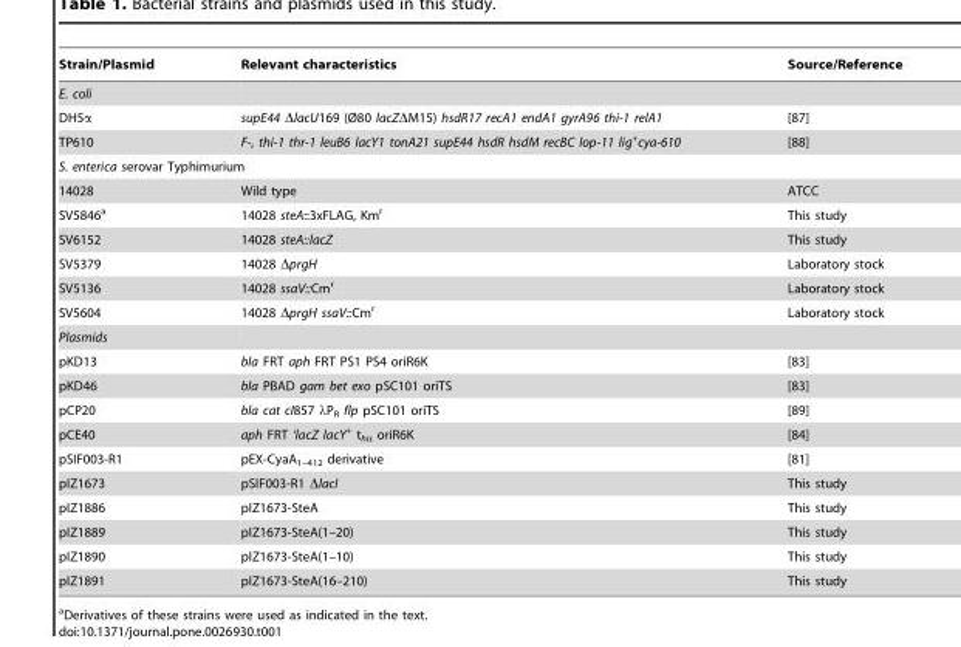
<table><thead><tr><td>Strain/Plasmid</td><td>Relevant characteristics</td><td>Source/Reference</td></tr></thead><tbody><tr><td colspan="3">E. coli</td></tr><tr><td>DH5α</td><td>supE44 ΔlacU169 (Ø80 lacZΔM15) hsdR17 recA1 endA1 gyrA96 thi-1 relA1</td><td>[87]</td></tr><tr><td>TP610</td><td>F-, thi-1 thr-1 leuB6 lacY1 tonA21 supE44 hsdR hsdM recBC lop-11 lig<sup>+</sup>cya-610</td><td>[88]</td></tr><tr><td colspan="3">S. enterica serovar Typhimurium</td></tr><tr><td>14028</td><td>Wild type</td><td>ATCC</td></tr><tr><td>SV5846<sup>a</sup></td><td>14028 steA::3xFLAG, Km<sup>r</sup></td><td>This study</td></tr><tr><td>SV6152</td><td>14028 steA::lacZ</td><td>This study</td></tr><tr><td>SV5379</td><td>14028 ΔprgH</td><td>Laboratory stock</td></tr><tr><td>SV5136</td><td>14028 ssaV::Cm<sup>r</sup></td><td>Laboratory stock</td></tr><tr><td>SV5604</td><td>14028 ΔprgH ssaV::Cm<sup>r</sup></td><td>Laboratory stock</td></tr><tr><td colspan="3">Plasmids</td></tr><tr><td>pKD13</td><td>bla FRT aph FRT PS1 PS4 oriR6K</td><td>[83]</td></tr><tr><td>pKD46</td><td>bla PBAD gam bet exo pSC101 oriTS</td><td>[83]</td></tr><tr><td>pCP20</td><td>bla cat cI857 λP<sub>R</sub> flp pSC101 oriTS</td><td>[89]</td></tr><tr><td>pCE40</td><td>aph FRT ‘lacZ lacY<sup>+</sup> t<sub>his</sub> oriR6K</td><td>[84]</td></tr><tr><td>pSIF003-R1</td><td>pEX-CyaA<sub>1–412</sub> derivative</td><td>[81]</td></tr><tr><td>pIZ1673</td><td>pSIF003-R1 ΔlacI</td><td>This study</td></tr><tr><td>pIZ1886</td><td>pIZ1673-SteA</td><td>This study</td></tr><tr><td>pIZ1889</td><td>pIZ1673-SteA(1–20)</td><td>This study</td></tr><tr><td>pIZ1890</td><td>pIZ1673-SteA(1–10)</td><td>This study</td></tr><tr><td>pIZ1891</td><td>pIZ1673-SteA(16–210)</td><td>This study</td></tr></tbody></table>